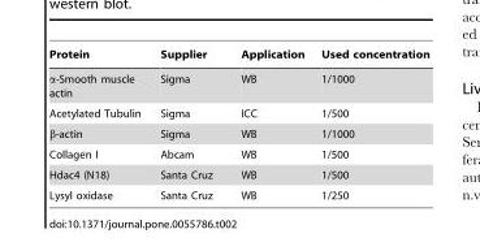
<table><thead><tr><td>Protein</td><td>Supplier</td><td>Application</td><td>Used concentration</td></tr></thead><tbody><tr><td>α-Smooth muscle actin</td><td>Sigma</td><td>WB</td><td>1/1000</td></tr><tr><td>Acetylated Tubulin</td><td>Sigma</td><td>ICC</td><td>1/500</td></tr><tr><td>β-actin</td><td>Sigma</td><td>WB</td><td>1/1000</td></tr><tr><td>Collagen I</td><td>Abcam</td><td>WB</td><td>1/500</td></tr><tr><td>Hdac4 (N18)</td><td>Santa Cruz</td><td>WB</td><td>1/500</td></tr><tr><td>Lysyl oxidase</td><td>Santa Cruz</td><td>WB</td><td>1/250</td></tr></tbody></table>